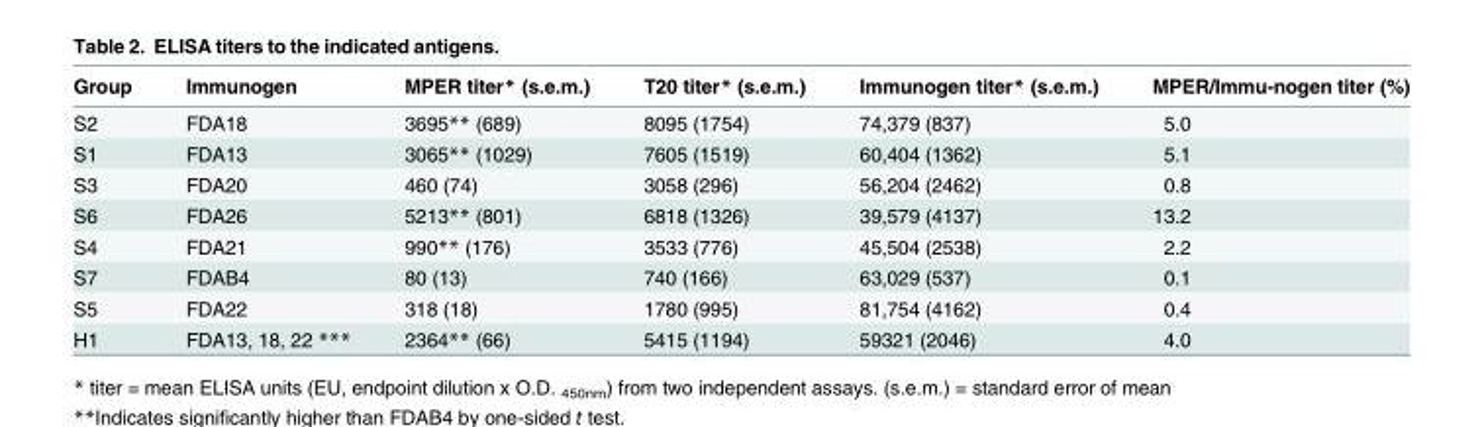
<table><thead><tr><td>Group</td><td>Immunogen</td><td>MPER titer* (s.e.m.)</td><td>T20 titer* (s.e.m.)</td><td>Immunogen titer* (s.e.m.)</td><td>MPER/Immu-nogen titer (%)</td></tr></thead><tbody><tr><td>S2</td><td>FDA18</td><td>3695** (689)</td><td>8095 (1754)</td><td>74,379 (837)</td><td>5.0</td></tr><tr><td>S1</td><td>FDA13</td><td>3065** (1029)</td><td>7605 (1519)</td><td>60,404 (1362)</td><td>5.1</td></tr><tr><td>S3</td><td>FDA20</td><td>460 (74)</td><td>3058 (296)</td><td>56,204 (2462)</td><td>0.8</td></tr><tr><td>S6</td><td>FDA26</td><td>5213** (801)</td><td>6818 (1326)</td><td>39,579 (4137)</td><td>13.2</td></tr><tr><td>S4</td><td>FDA21</td><td>990** (176)</td><td>3533 (776)</td><td>45,504 (2538)</td><td>2.2</td></tr><tr><td>S7</td><td>FDAB4</td><td>80 (13)</td><td>740 (166)</td><td>63,029 (537)</td><td>0.1</td></tr><tr><td>S5</td><td>FDA22</td><td>318 (18)</td><td>1780 (995)</td><td>81,754 (4162)</td><td>0.4</td></tr><tr><td>H1</td><td>FDA13, 18, 22 ***</td><td>2364** (66)</td><td>5415 (1194)</td><td>59321 (2046)</td><td>4.0</td></tr></tbody></table>